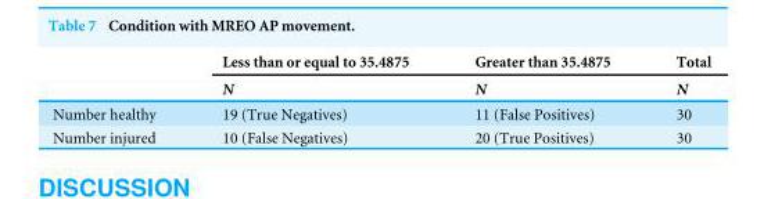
<table><thead><tr><td rowspan="2"></td><td rowspan="2">Less than or equal to 35.4875 N</td><td rowspan="2">Greater than 35.4875 N</td><td rowspan="2">Total N</td></tr><tr></tr></thead><tbody><tr><td>Number healthy</td><td>19 (True Negatives)</td><td>11 (False Positives)</td><td>30</td></tr><tr><td>Number injured</td><td>10 (False Negatives)</td><td>20 (True Positives)</td><td>30</td></tr></tbody></table>